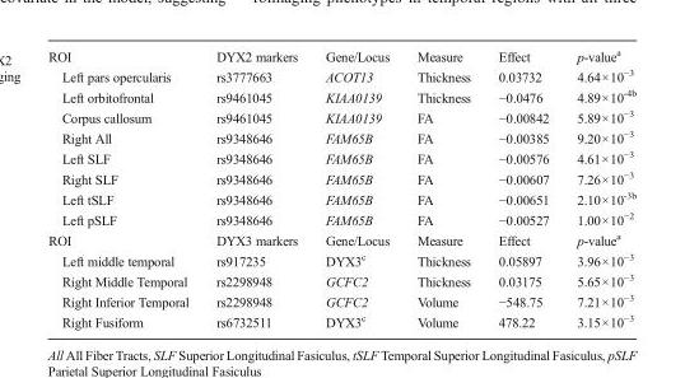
<table><tbody><tr><td>ROI</td><td>DYX2 markers</td><td>Gene/Locus</td><td>Measure</td><td>Effect</td><td>p-value<sup>a</sup></td></tr><tr><td>Left pars opercularis</td><td>rs3777663</td><td>ACOT13</td><td>Thickness</td><td>0.03732</td><td>4.64×10<sup>−3</sup></td></tr><tr><td>Left orbitofrontal</td><td>rs9461045</td><td>KIAA0139</td><td>Thickness</td><td>−0.0476</td><td>4.89×10<sup>-4b</sup></td></tr><tr><td>Corpus callosum</td><td>rs9461045</td><td>KIAA0139</td><td>FA</td><td>−0.00842</td><td>5.89×10<sup>−3</sup></td></tr><tr><td>Right All</td><td>rs9348646</td><td>FAM65B</td><td>FA</td><td>−0.00385</td><td>9.20×10<sup>−3</sup></td></tr><tr><td>Left SLF</td><td>rs9348646</td><td>FAM65B</td><td>FA</td><td>−0.00576</td><td>4.61×10<sup>−3</sup></td></tr><tr><td>Right SLF</td><td>rs9348646</td><td>FAM65B</td><td>FA</td><td>−0.00607</td><td>7.26×10<sup>−3</sup></td></tr><tr><td>Left tSLF</td><td>rs9348646</td><td>FAM65B</td><td>FA</td><td>−0.00651</td><td>2.10×10<sup>-3b</sup></td></tr><tr><td>Left pSLF</td><td>rs9348646</td><td>FAM65B</td><td>FA</td><td>−0.00527</td><td>1.00×10<sup>−2</sup></td></tr><tr><td>ROI</td><td>DYX3 markers</td><td>Gene/Locus</td><td>Measure</td><td>Effect</td><td>p-value<sup>a</sup></td></tr><tr><td>Left middle temporal</td><td>rs917235</td><td>DYX3<sup>c</sup></td><td>Thickness</td><td>0.05897</td><td>3.96×10<sup>−3</sup></td></tr><tr><td>Right Middle Temporal</td><td>rs2298948</td><td>GCFC2</td><td>Thickness</td><td>0.03175</td><td>5.65×10<sup>−3</sup></td></tr><tr><td>Right Inferior Temporal</td><td>rs2298948</td><td>GCFC2</td><td>Volume</td><td>−548.75</td><td>7.21×10<sup>−3</sup></td></tr><tr><td>Right Fusiform</td><td>rs6732511</td><td>DYX3<sup>c</sup></td><td>Volume</td><td>478.22</td><td>3.15×10<sup>−3</sup></td></tr></tbody></table>